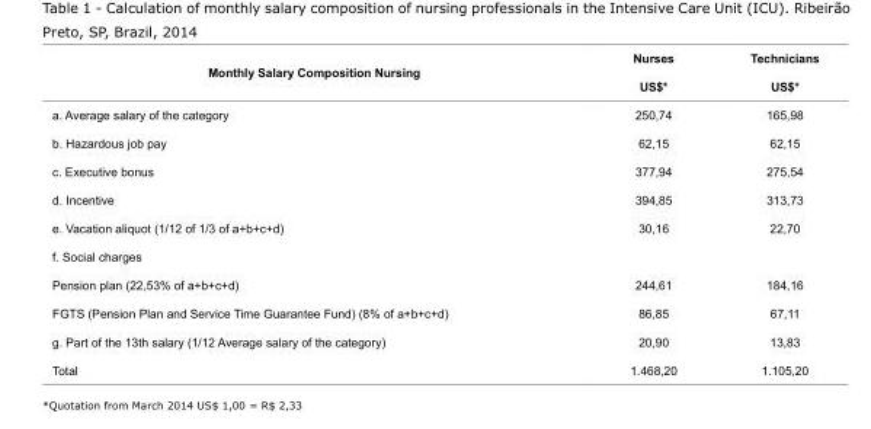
<table><tbody><tr><td>Monthly Salary Composition Nursing</td><td>Nurses US$*</td><td>Technicians US$*</td></tr><tr><td>a. Average salary of the category</td><td>250,74</td><td>165,98</td></tr><tr><td>b. Hazardous job pay</td><td>62,15</td><td>62,15</td></tr><tr><td>c. Executive bonus</td><td>377,94</td><td>275,54</td></tr><tr><td>d. Incentive</td><td>394,85</td><td>313,73</td></tr><tr><td>e. Vacation aliquot (1/12 of 1/3 of a+b+c+d)</td><td>30,16</td><td>22,70</td></tr><tr><td colspan="3">f. Social charges</td></tr><tr><td>Pension plan (22,53% of a+b+c+d)</td><td>244,61</td><td>184,16</td></tr><tr><td>FGTS (Pension Plan and Service Time Guarantee Fund) (8% of a+b+c+d)</td><td>86,85</td><td>67,11</td></tr><tr><td>g. Part of the 13th salary (1/12 Average salary of the category)</td><td>20,90</td><td>13,83</td></tr><tr><td>Total</td><td>1.468,20</td><td>1.105,20</td></tr></tbody></table>